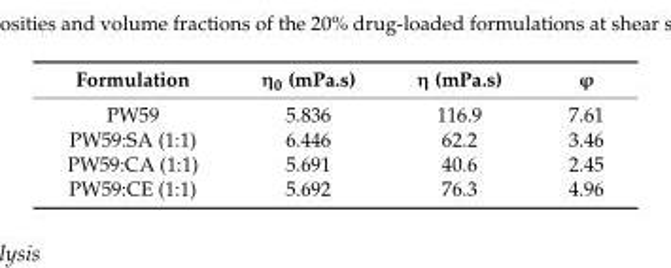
<table><thead><tr><td>Formulation</td><td>η<sub>0</sub> (mPa.s)</td><td>η (mPa.s)</td><td>ϕ</td></tr></thead><tbody><tr><td>PW59</td><td>5.836</td><td>116.9</td><td>7.61</td></tr><tr><td>PW59:SA (1:1)</td><td>6.446</td><td>62.2</td><td>3.46</td></tr><tr><td>PW59:CA (1:1)</td><td>5.691</td><td>40.6</td><td>2.45</td></tr><tr><td>PW59:CE (1:1)</td><td>5.692</td><td>76.3</td><td>4.96</td></tr></tbody></table>